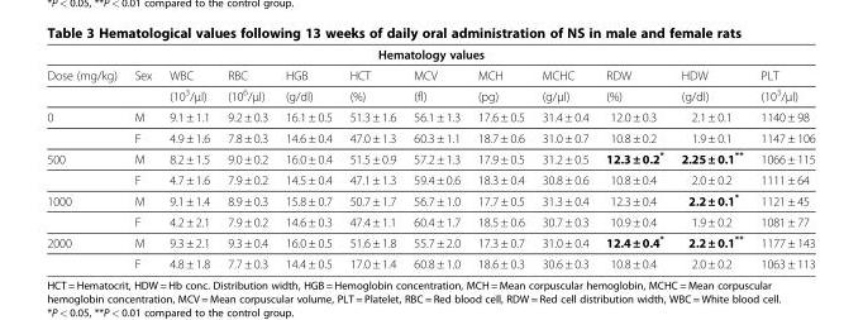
<table><thead><tr><td colspan="12">Hematology values</td></tr><tr><td>Dose (mg/kg)</td><td>Sex</td><td>WBC</td><td>RBC</td><td>HGB</td><td>HCT</td><td>MCV</td><td>MCH</td><td>MCHC</td><td>RDW</td><td>HDW</td><td>PLT</td></tr></thead><tbody><tr><td></td><td></td><td>(10<sup>3</sup>/μl)</td><td>(10<sup>6</sup>/μl)</td><td>(g/dl)</td><td>(%)</td><td>(fl)</td><td>(pg)</td><td>(g/μl)</td><td>(%)</td><td>(g/dl)</td><td>(10<sup>3</sup>/μl)</td></tr><tr><td rowspan="2">0</td><td>M</td><td>9.1 ± 1.1</td><td>9.2 ± 0.3</td><td>16.1 ± 0.5</td><td>51.3 ± 1.6</td><td>56.1 ± 1.3</td><td>17.6 ± 0.5</td><td>31.4 ± 0.4</td><td>12.0 ± 0.3</td><td>2.1 ± 0.1</td><td>1140 ± 98</td></tr><tr><td>F</td><td>4.9 ± 1.6</td><td>7.8 ± 0.3</td><td>14.6 ± 0.4</td><td>47.0 ± 1.3</td><td>60.3 ± 1.1</td><td>18.7 ± 0.6</td><td>31.0 ± 0.7</td><td>10.8 ± 0.2</td><td>1.9 ± 0.1</td><td>1147 ± 106</td></tr><tr><td rowspan="2">500</td><td>M</td><td>8.2 ± 1.5</td><td>9.0 ± 0.2</td><td>16.0 ± 0.4</td><td>51.5 ± 0.9</td><td>57.2 ± 1.3</td><td>17.9 ± 0.5</td><td>31.2 ± 0.5</td><td>12.3 ± 0.2*</td><td>2.25 ± 0.1**</td><td>1066 ± 115</td></tr><tr><td>F</td><td>4.7 ± 1.6</td><td>7.9 ± 0.2</td><td>14.5 ± 0.4</td><td>47.1 ± 1.3</td><td>59.4 ± 0.6</td><td>18.3 ± 0.4</td><td>30.8 ± 0.6</td><td>10.8 ± 0.4</td><td>2.0 ± 0.2</td><td>1111 ± 64</td></tr><tr><td rowspan="2">1000</td><td>M</td><td>9.1 ± 1.4</td><td>8.9 ± 0.3</td><td>15.8 ± 0.7</td><td>50.7 ± 1.7</td><td>56.7 ± 1.0</td><td>17.7 ± 0.5</td><td>31.3 ± 0.4</td><td>12.3 ± 0.4</td><td>2.2 ± 0.1*</td><td>1121 ± 45</td></tr><tr><td>F</td><td>4.2 ± 2.1</td><td>7.9 ± 0.2</td><td>14.6 ± 0.3</td><td>47.4 ± 1.1</td><td>60.4 ± 1.7</td><td>18.5 ± 0.6</td><td>30.7 ± 0.3</td><td>10.9 ± 0.4</td><td>1.9 ± 0.2</td><td>1081 ± 77</td></tr><tr><td rowspan="2">2000</td><td>M</td><td>9.3 ± 2.1</td><td>9.3 ± 0.4</td><td>16.0 ± 0.5</td><td>51.6 ± 1.8</td><td>55.7 ± 2.0</td><td>17.3 ± 0.7</td><td>31.0 ± 0.4</td><td>12.4 ± 0.4*</td><td>2.2 ± 0.1**</td><td>1177 ± 143</td></tr><tr><td>F</td><td>4.8 ± 1.8</td><td>7.7 ± 0.3</td><td>14.4 ± 0.5</td><td>17.0 ± 1.4</td><td>60.8 ± 1.0</td><td>18.6 ± 0.3</td><td>30.6 ± 0.3</td><td>10.8 ± 0.4</td><td>2.0 ± 0.2</td><td>1063 ± 113</td></tr></tbody></table>